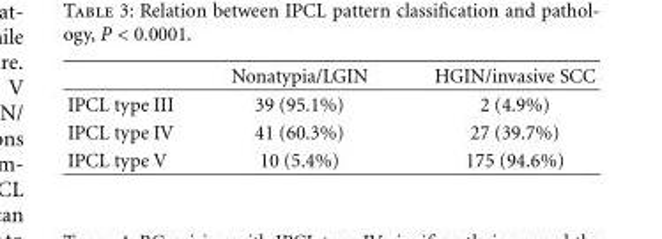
<table><thead><tr><td></td><td>Nonatypia/LGIN</td><td>HGIN/invasive SCC</td></tr></thead><tbody><tr><td>IPCL type III</td><td>39 (95.1%)</td><td>2 (4.9%)</td></tr><tr><td>IPCL type IV</td><td>41 (60.3%)</td><td>27 (39.7%)</td></tr><tr><td>IPCL type V</td><td>10 (5.4%)</td><td>175 (94.6%)</td></tr></tbody></table>